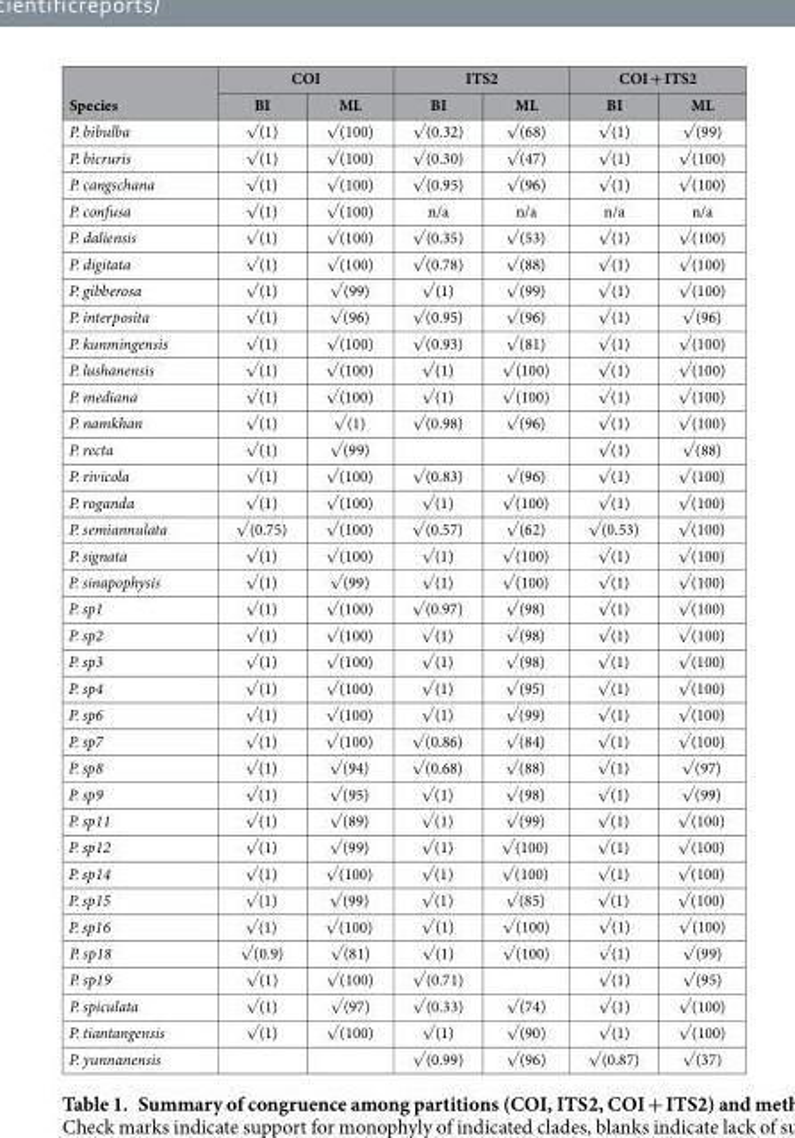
<table><thead><tr><td rowspan="2">Species</td><td colspan="2">COI</td><td colspan="2">ITS2</td><td colspan="2">COI + ITS2</td></tr><tr><td>BI</td><td>ML</td><td>BI</td><td>ML</td><td>BI</td><td>ML</td></tr></thead><tbody><tr><td>P. bibulba</td><td>√ (1)</td><td>√ (100)</td><td>√ (0.32)</td><td>√ (68)</td><td>√ (1)</td><td>√ (99)</td></tr><tr><td>P. bicruris</td><td>√ (1)</td><td>√ (100)</td><td>√ (0.30)</td><td>√ (47)</td><td>√ (1)</td><td>√ (100)</td></tr><tr><td>P. cangschana</td><td>√ (1)</td><td>√ (100)</td><td>√ (0.95)</td><td>√ (96)</td><td>√ (1)</td><td>√ (100)</td></tr><tr><td>P. confusa</td><td>√ (1)</td><td>√ (100)</td><td>n/a</td><td>n/a</td><td>n/a</td><td>n/a</td></tr><tr><td>P. daliensis</td><td>√ (1)</td><td>√ (100)</td><td>√ (0.35)</td><td>√ (53)</td><td>√ (1)</td><td>√ (100)</td></tr><tr><td>P. digitata</td><td>√ (1)</td><td>√ (100)</td><td>√ (0.78)</td><td>√ (88)</td><td>√ (1)</td><td>√ (100)</td></tr><tr><td>P. gibberosa</td><td>√ (1)</td><td>√ (99)</td><td>√ (1)</td><td>√ (99)</td><td>√ (1)</td><td>√ (100)</td></tr><tr><td>P. interposita</td><td>√ (1)</td><td>√ (96)</td><td>√ (0.95)</td><td>√ (96)</td><td>√ (1)</td><td>√ (96)</td></tr><tr><td>P. kunmingensis</td><td>√ (1)</td><td>√ (100)</td><td>√ (0.93)</td><td>√ (81)</td><td>√ (1)</td><td>√ (100)</td></tr><tr><td>P. lushanensis</td><td>√ (1)</td><td>√ (100)</td><td>√ (1)</td><td>√ (100)</td><td>√ (1)</td><td>√ (100)</td></tr><tr><td>P. mediana</td><td>√ (1)</td><td>√ (100)</td><td>√ (1)</td><td>√ (100)</td><td>√ (1)</td><td>√ (100)</td></tr><tr><td>P. namkhan</td><td>√ (1)</td><td>√ (1)</td><td>√ (0.98)</td><td>√ (96)</td><td>√ (1)</td><td>√ (100)</td></tr><tr><td>P. recta</td><td>√ (1)</td><td>√ (99)</td><td></td><td></td><td>√ (1)</td><td>√ (88)</td></tr><tr><td>P. rivicola</td><td>√ (1)</td><td>√ (100)</td><td>√ (0.83)</td><td>√ (96)</td><td>√ (1)</td><td>√ (100)</td></tr><tr><td>P. roganda</td><td>√ (1)</td><td>√ (100)</td><td>√ (1)</td><td>√ (100)</td><td>√ (1)</td><td>√ (100)</td></tr><tr><td>P. semiannulata</td><td>√ (0.75)</td><td>√ (100)</td><td>√ (0.57)</td><td>√ (62)</td><td>√ (0.53)</td><td>√ (100)</td></tr><tr><td>P. signata</td><td>√ (1)</td><td>√ (100)</td><td>√ (1)</td><td>√ (100)</td><td>√ (1)</td><td>√ (100)</td></tr><tr><td>P. sinapophysis</td><td>√ (1)</td><td>√ (99)</td><td>√ (1)</td><td>√ (100)</td><td>√ (1)</td><td>√ (100)</td></tr><tr><td>P. sp1</td><td>√ (1)</td><td>√ (100)</td><td>√ (0.97)</td><td>√ (98)</td><td>√ (1)</td><td>√ (100)</td></tr><tr><td>P. sp2</td><td>√ (1)</td><td>√ (100)</td><td>√ (1)</td><td>√ (98)</td><td>√ (1)</td><td>√ (100)</td></tr><tr><td>P. sp3</td><td>√ (1)</td><td>√ (100)</td><td>√ (1)</td><td>√ (98)</td><td>√ (1)</td><td>√ (100)</td></tr><tr><td>P. sp4</td><td>√ (1)</td><td>√ (100)</td><td>√ (1)</td><td>√ (95)</td><td>√ (1)</td><td>√ (100)</td></tr><tr><td>P. sp6</td><td>√ (1)</td><td>√ (100)</td><td>√ (1)</td><td>√ (99)</td><td>√ (1)</td><td>√ (100)</td></tr><tr><td>P. sp7</td><td>√ (1)</td><td>√ (100)</td><td>√ (0.86)</td><td>√ (84)</td><td>√ (1)</td><td>√ (100)</td></tr><tr><td>P. sp8</td><td>√ (1)</td><td>√ (94)</td><td>√ (0.68)</td><td>√ (88)</td><td>√ (1)</td><td>√ (97)</td></tr><tr><td>P. sp9</td><td>√ (1)</td><td>√ (95)</td><td>√ (1)</td><td>√ (98)</td><td>√ (1)</td><td>√ (99)</td></tr><tr><td>P. sp11</td><td>√ (1)</td><td>√ (89)</td><td>√ (1)</td><td>√ (99)</td><td>√ (1)</td><td>√ (100)</td></tr><tr><td>P. sp12</td><td>√ (1)</td><td>√ (99)</td><td>√ (1)</td><td>√ (100)</td><td>√ (1)</td><td>√ (100)</td></tr><tr><td>P. sp14</td><td>√ (1)</td><td>√ (100)</td><td>√ (1)</td><td>√ (100)</td><td>√ (1)</td><td>√ (100)</td></tr><tr><td>P. sp15</td><td>√ (1)</td><td>√ (99)</td><td>√ (1)</td><td>√ (85)</td><td>√ (1)</td><td>√ (100)</td></tr><tr><td>P. sp16</td><td>√ (1)</td><td>√ (100)</td><td>√ (1)</td><td>√ (100)</td><td>√ (1)</td><td>√ (100)</td></tr><tr><td>P. sp18</td><td>√ (0.9)</td><td>√ (81)</td><td>√ (1)</td><td>√ (100)</td><td>√ (1)</td><td>√ (99)</td></tr><tr><td>P. sp19</td><td>√ (1)</td><td>√ (100)</td><td>√ (0.71)</td><td></td><td>√ (1)</td><td>√ (95)</td></tr><tr><td>P. spiculata</td><td>√ (1)</td><td>√ (97)</td><td>√ (0.33)</td><td>√ (74)</td><td>√ (1)</td><td>√ (100)</td></tr><tr><td>P. tiantangensis</td><td>√ (1)</td><td>√ (100)</td><td>√ (1)</td><td>√ (90)</td><td>√ (1)</td><td>√ (100)</td></tr><tr><td>P. yunnanensis</td><td></td><td></td><td>√ (0.99)</td><td>√ (96)</td><td>√ (0.87)</td><td>√ (37)</td></tr></tbody></table>